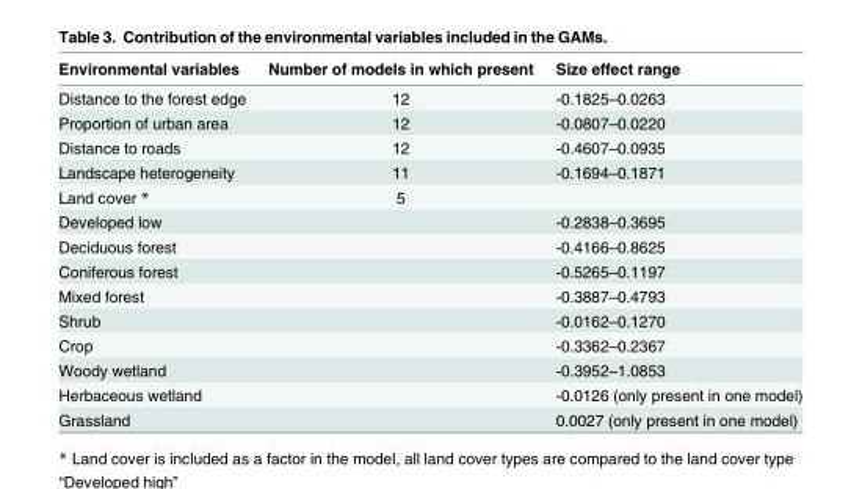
<table><thead><tr><td>Environmental variables</td><td>Number of models in which present</td><td>Size effect range</td></tr></thead><tbody><tr><td>Distance to the forest edge</td><td>12</td><td>-0.1825–0.0263</td></tr><tr><td>Proportion of urban area</td><td>12</td><td>-0.0807–0.0220</td></tr><tr><td>Distance to roads</td><td>12</td><td>-0.4607–0.0935</td></tr><tr><td>Landscape heterogeneity</td><td>11</td><td>-0.1694–0.1871</td></tr><tr><td>Land cover *</td><td>5</td><td></td></tr><tr><td>Developed low</td><td></td><td>-0.2838–0.3695</td></tr><tr><td>Deciduous forest</td><td></td><td>-0.4166–0.8625</td></tr><tr><td>Coniferous forest</td><td></td><td>-0.5265–0.1197</td></tr><tr><td>Mixed forest</td><td></td><td>-0.3887–0.4793</td></tr><tr><td>Shrub</td><td></td><td>-0.0162–0.1270</td></tr><tr><td>Crop</td><td></td><td>-0.3362–0.2367</td></tr><tr><td>Woody wetland</td><td></td><td>-0.3952–1.0853</td></tr><tr><td>Herbaceous wetland</td><td></td><td>-0.0126 (only present in one model)</td></tr><tr><td>Grassland</td><td></td><td>0.0027 (only present in one model)</td></tr></tbody></table>